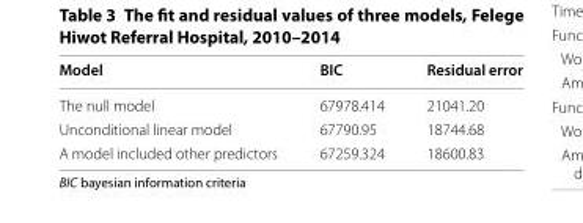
<table><thead><tr><td>Model</td><td>BIC</td><td>Residual error</td></tr></thead><tbody><tr><td>The null model</td><td>67978.414</td><td>21041.20</td></tr><tr><td>Unconditional linear model</td><td>67790.95</td><td>18744.68</td></tr><tr><td>A model included other predictors</td><td>67259.324</td><td>18600.83</td></tr></tbody></table>